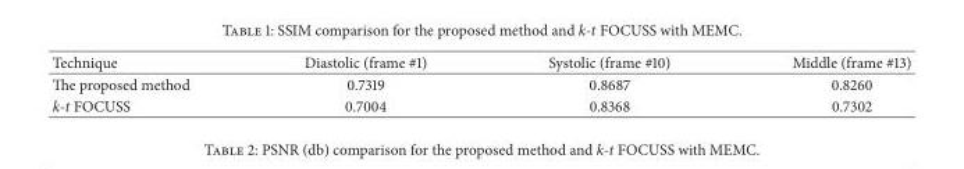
<table><thead><tr><td>Technique</td><td>Diastolic (frame #1)</td><td>Systolic (frame #10)</td><td>Middle (frame #13)</td></tr></thead><tbody><tr><td>The proposed method</td><td>0.7319</td><td>0.8687</td><td>0.8260</td></tr><tr><td>k-t FOCUSS</td><td>0.7004</td><td>0.8368</td><td>0.7302</td></tr></tbody></table>